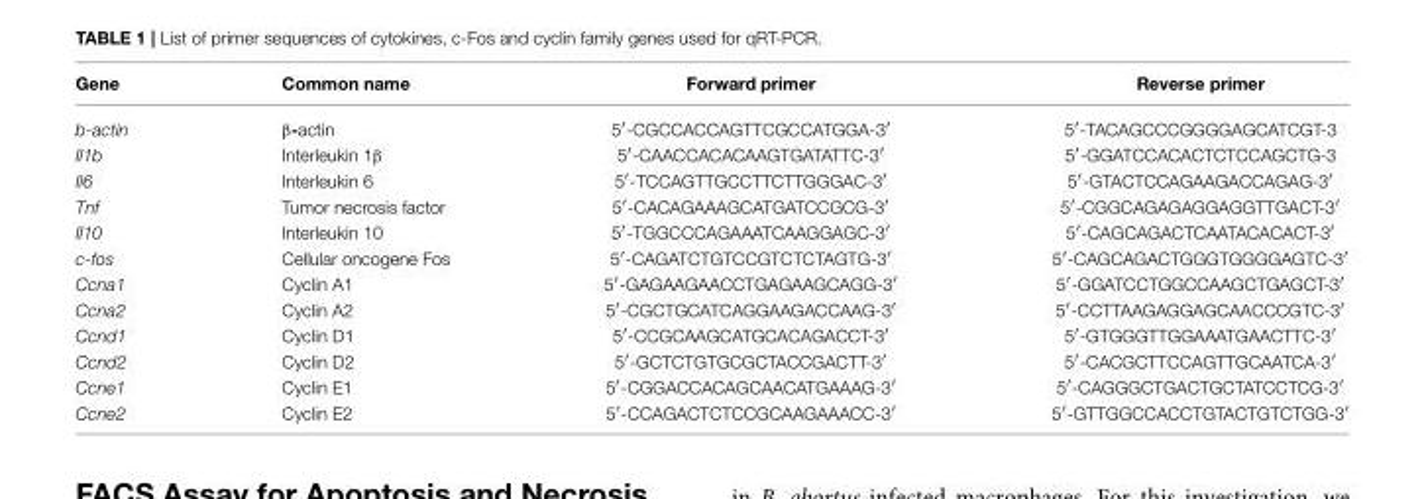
<table><thead><tr><td>Gene</td><td>Common name</td><td>Forward primer</td><td>Reverse primer</td></tr></thead><tbody><tr><td>b-actin</td><td>β-actin</td><td>5′-CGCCACCAGTTCGCCATGGA-3′</td><td>5′-TACAGCCCGGGGAGCATCGT-3</td></tr><tr><td>Il1b</td><td>Interleukin 1β</td><td>5′-CAACCACACAAGTGATATTC-3′</td><td>5′-GGATCCACACTCTCCAGCTG-3</td></tr><tr><td>Il6</td><td>Interleukin 6</td><td>5′-TCCAGTTGCCTTCTTGGGAC-3′</td><td>5′-GTACTCCAGAAGACCAGAG-3′</td></tr><tr><td>Tnf</td><td>Tumor necrosis factor</td><td>5′-CACAGAAAGCATGATCCGCG-3′</td><td>5′-CGGCAGAGAGGAGGTTGACT-3′</td></tr><tr><td>Il10</td><td>Interleukin 10</td><td>5′-TGGCCCAGAAATCAAGGAGC-3′</td><td>5′-CAGCAGACTCAATACACACT-3′</td></tr><tr><td>c-fos</td><td>Cellular oncogene Fos</td><td>5′-CAGATCTGTCCGTCTCTAGTG-3′</td><td>5′-CAGCAGACTGGGTGGGGAGTC-3′</td></tr><tr><td>Ccna1</td><td>Cyclin A1</td><td>5′-GAGAAGAACCTGAGAAGCAGG-3′</td><td>5′-GGATCCTGGCCAAGCTGAGCT-3′</td></tr><tr><td>Ccna2</td><td>Cyclin A2</td><td>5′-CGCTGCATCAGGAAGACCAAG-3′</td><td>5′-CCTTAAGAGGAGCAACCCGTC-3′</td></tr><tr><td>Ccnd1</td><td>Cyclin D1</td><td>5′-CCGCAAGCATGCACAGACCT-3′</td><td>5′-GTGGGTTGGAAATGAACTTC-3′</td></tr><tr><td>Ccnd2</td><td>Cyclin D2</td><td>5′-GCTCTGTGCGCTACCGACTT-3′</td><td>5′-CACGCTTCCAGTTGCAATCA-3′</td></tr><tr><td>Ccne1</td><td>Cyclin E1</td><td>5′-CGGACCACAGCAACATGAAAG-3′</td><td>5′-CAGGGCTGACTGCTATCCTCG-3′</td></tr><tr><td>Ccne2</td><td>Cyclin E2</td><td>5′-CCAGACTCTCCGCAAGAAACC-3′</td><td>5′-GTTGGCCACCTGTACTGTCTGG-3′</td></tr></tbody></table>